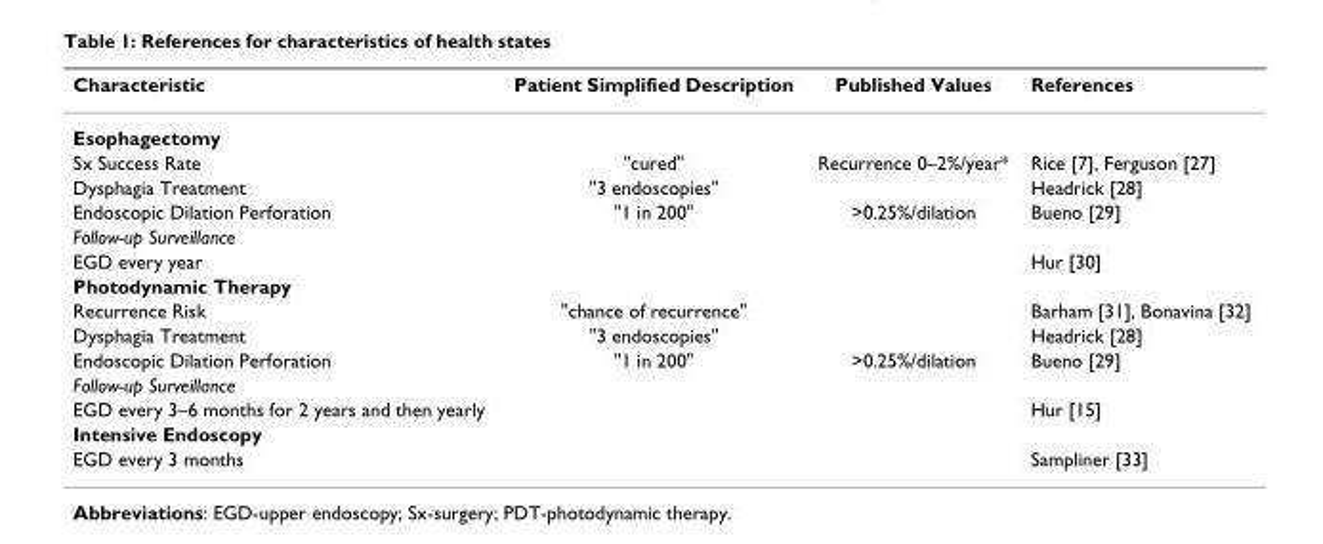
<table><thead><tr><td>Characteristic</td><td>Patient Simplified Description</td><td>Published Values</td><td>References</td></tr></thead><tbody><tr><td colspan="4">Esophagectomy</td></tr><tr><td>Sx Success Rate</td><td>&quot;cured&quot;</td><td>Recurrence 0–2%/year*</td><td>Rice [7], Ferguson [27]</td></tr><tr><td>Dysphagia Treatment</td><td>&quot;3 endoscopies&quot;</td><td></td><td>Headrick [28]</td></tr><tr><td>Endoscopic Dilation Perforation</td><td>&quot;1 in 200&quot;</td><td>&gt;0.25%/dilation</td><td>Bueno [29]</td></tr><tr><td colspan="4">Follow-up Surveillance</td></tr><tr><td>EGD every year</td><td></td><td></td><td>Hur [30]</td></tr><tr><td colspan="4">Photodynamic Therapy</td></tr><tr><td>Recurrence Risk</td><td>&quot;chance of recurrence&quot;</td><td></td><td>Barham [31], Bonavina [32]</td></tr><tr><td>Dysphagia Treatment</td><td>&quot;3 endoscopies&quot;</td><td></td><td>Headrick [28]</td></tr><tr><td>Endoscopic Dilation Perforation</td><td>&quot;1 in 200&quot;</td><td>&gt;0.25%/dilation</td><td>Bueno [29]</td></tr><tr><td colspan="4">Follow-up Surveillance</td></tr><tr><td>EGD every 3–6 months for 2 years and then yearly</td><td></td><td></td><td>Hur [15]</td></tr><tr><td colspan="4">Intensive Endoscopy</td></tr><tr><td>EGD every 3 months</td><td></td><td></td><td>Sampliner [33]</td></tr></tbody></table>